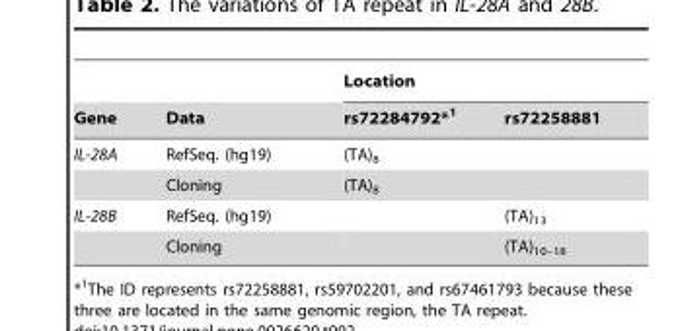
<table><thead><tr><td rowspan="2">Gene</td><td rowspan="2">Data</td><td colspan="2">Location</td></tr><tr><td>rs72284792*1</td><td>rs72258881</td></tr></thead><tbody><tr><td rowspan="2">IL-28A</td><td>RefSeq. (hg19)</td><td>(TA)<sub>8</sub></td><td></td></tr><tr><td>Cloning</td><td>(TA)<sub>8</sub></td><td></td></tr><tr><td rowspan="2">IL-28B</td><td>RefSeq. (hg19)</td><td></td><td>(TA)<sub>13</sub></td></tr><tr><td>Cloning</td><td></td><td>(TA)<sub>10–18</sub></td></tr></tbody></table>